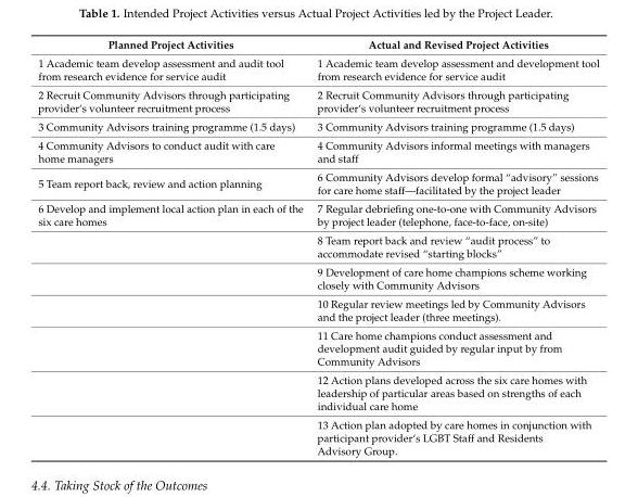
<table><thead><tr><td>Planned Project Activities</td><td>Actual and Revised Project Activities</td></tr></thead><tbody><tr><td>1 Academic team develop assessment and audit tool from research evidence for service audit</td><td>1 Academic team develop assessment and development tool from research evidence for service audit</td></tr><tr><td>2 Recruit Community Advisors through participating provider‘s volunteer recruitment process</td><td>2 Recruit Community Advisors through participating provider‘s volunteer recruitment process</td></tr><tr><td>3 Community Advisors training programme (1.5 days)</td><td>3 Community Advisors training programme (1.5 days)</td></tr><tr><td>4 Community Advisors to conduct audit with care home managers</td><td>4 Community Advisors informal meetings with managers and staff</td></tr><tr><td>5 Team report back, review and action planning</td><td>6 Community Advisors develop formal “advisory” sessions for care home staff—facilitated by the project leader</td></tr><tr><td rowspan="7">6 Develop and implement local action plan in each of the six care homes</td><td>7 Regular debriefing one-to-one with Community Advisors by project leader (telephone, face-to-face, on-site)</td></tr><tr><td>8 Team report back and review “audit process” to accommodate revised “starting blocks”</td></tr><tr><td>9 Development of care home champions scheme working closely with Community Advisors</td></tr><tr><td>10 Regular review meetings led by Community Advisors and the project leader (three meetings).</td></tr><tr><td>11 Care home champions conduct assessment and development audit guided by regular input by from Community Advisors</td></tr><tr><td>12 Action plans developed across the six care homes with leadership of particular areas based on strengths of each individual care home</td></tr><tr><td>13 Action plan adopted by care homes in conjunction with participant provider‘s LGBT Staff and Residents Advisory Group.</td></tr></tbody></table>